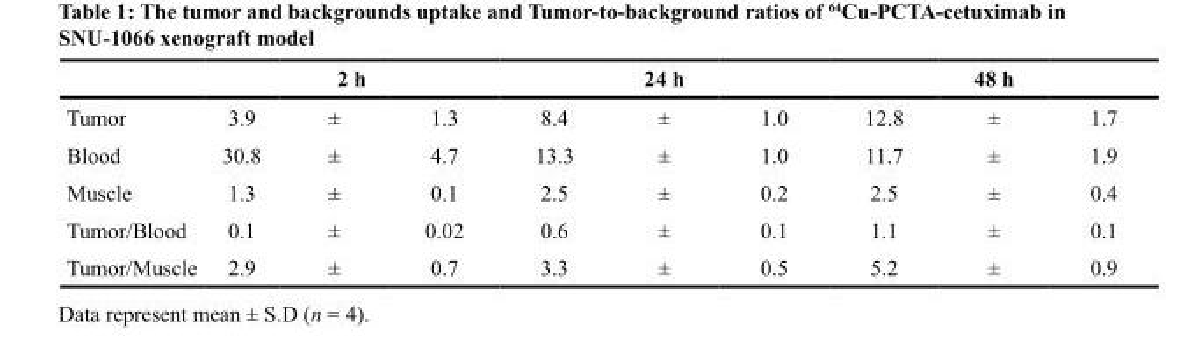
<table><thead><tr><td rowspan="2">Tumor</td><td colspan="3">2 h</td><td colspan="3">24 h</td><td colspan="3">48 h</td></tr><tr><td>3.9</td><td>±</td><td>1.3</td><td>8.4</td><td>±</td><td>1.0</td><td>12.8</td><td>±</td><td>1.7</td></tr></thead><tbody><tr><td>Blood</td><td>30.8</td><td>±</td><td>4.7</td><td>13.3</td><td>±</td><td>1.0</td><td>11.7</td><td>±</td><td>1.9</td></tr><tr><td>Muscle</td><td>1.3</td><td>±</td><td>0.1</td><td>2.5</td><td>±</td><td>0.2</td><td>2.5</td><td>±</td><td>0.4</td></tr><tr><td>Tumor/Blood</td><td>0.1</td><td>±</td><td>0.02</td><td>0.6</td><td>±</td><td>0.1</td><td>1.1</td><td>±</td><td>0.1</td></tr><tr><td>Tumor/Muscle</td><td>2.9</td><td>±</td><td>0.7</td><td>3.3</td><td>±</td><td>0.5</td><td>5.2</td><td>±</td><td>0.9</td></tr></tbody></table>